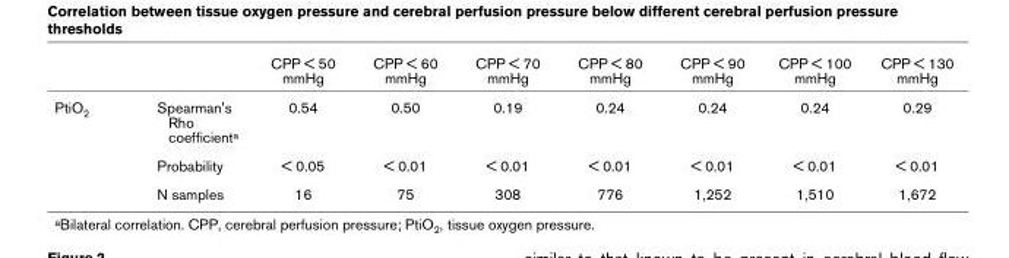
<table><thead><tr><td></td><td></td><td>CPP &lt; 50 mmHg</td><td>CPP &lt; 60 mmHg</td><td>CPP &lt; 70 mmHg</td><td>CPP &lt; 80 mmHg</td><td>CPP &lt; 90 mmHg</td><td>CPP &lt; 100 mmHg</td><td>CPP &lt; 130 mmHg</td></tr></thead><tbody><tr><td rowspan="3">PtiO2</td><td>Spearman&#x27;s Rho coefficienta</td><td>0.54</td><td>0.50</td><td>0.19</td><td>0.24</td><td>0.24</td><td>0.24</td><td>0.29</td></tr><tr><td>Probability</td><td>&lt; 0.05</td><td>&lt; 0.01</td><td>&lt; 0.01</td><td>&lt; 0.01</td><td>&lt; 0.01</td><td>&lt; 0.01</td><td>&lt; 0.01</td></tr><tr><td>N samples</td><td>16</td><td>75</td><td>308</td><td>776</td><td>1,252</td><td>1,510</td><td>1,672</td></tr></tbody></table>